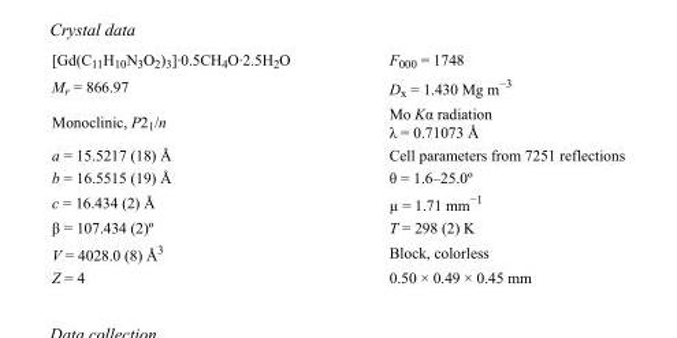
<table><tbody><tr><td>[Gd(C<sub>11</sub>H<sub>10</sub>N<sub>3</sub>O<sub>2</sub>)<sub>3</sub>]·0.5CH<sub>4</sub>O·2.5H<sub>2</sub>O</td><td>F<sub>000</sub> = 1748</td></tr><tr><td>M<sub>r</sub> = 866.97</td><td>D<sub>x</sub> = 1.430 Mg m<sup>−3</sup></td></tr><tr><td>Monoclinic, P2<sub>1</sub>/n</td><td>Mo Kα radiation λ = 0.71073 Å</td></tr><tr><td>a = 15.5217 (18) Å</td><td>Cell parameters from 7251 reflections</td></tr><tr><td>b = 16.5515 (19) Å</td><td>θ = 1.6–25.0º</td></tr><tr><td>c = 16.434 (2) Å</td><td>µ = 1.71 mm<sup>−1</sup></td></tr><tr><td>β = 107.434 (2)º</td><td>T = 298 (2) K</td></tr><tr><td>V = 4028.0 (8) Å<sup>3</sup></td><td>Block, colorless</td></tr><tr><td>Z = 4</td><td>0.50 × 0.49 × 0.45 mm</td></tr></tbody></table>